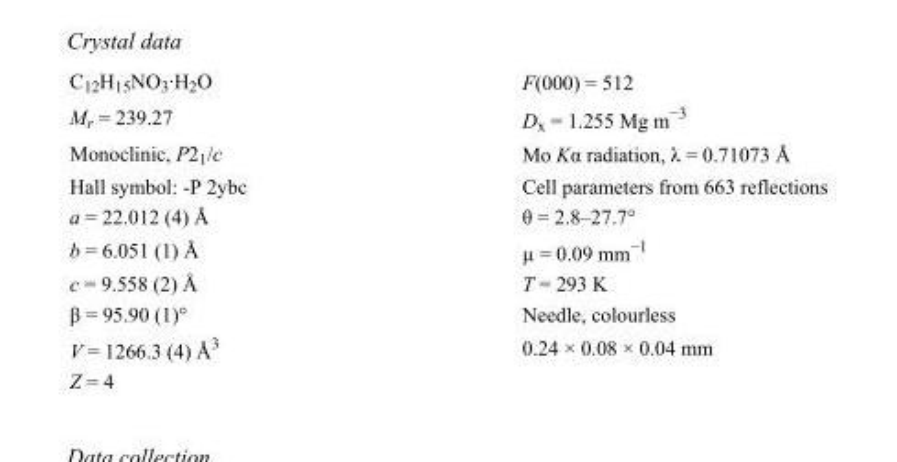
<table><tbody><tr><td>C<sub>12</sub>H<sub>15</sub>NO<sub>3</sub>·H<sub>2</sub>O</td><td>F(000) = 512</td></tr><tr><td>M<sub>r</sub> = 239.27</td><td>D<sub>x</sub> = 1.255 Mg m<sup>−3</sup></td></tr><tr><td>Monoclinic, P2<sub>1</sub>/c</td><td>Mo Kα radiation, λ = 0.71073 Å</td></tr><tr><td>Hall symbol: -P 2ybc</td><td>Cell parameters from 663 reflections</td></tr><tr><td>a = 22.012 (4) Å</td><td>θ = 2.8–27.7°</td></tr><tr><td>b = 6.051 (1) Å</td><td>µ = 0.09 mm<sup>−1</sup></td></tr><tr><td>c = 9.558 (2) Å</td><td>T = 293 K</td></tr><tr><td>β = 95.90 (1)°</td><td>Needle, colourless</td></tr><tr><td>V = 1266.3 (4) Å<sup>3</sup></td><td>0.24 × 0.08 × 0.04 mm</td></tr><tr><td>Z = 4</td><td></td></tr></tbody></table>